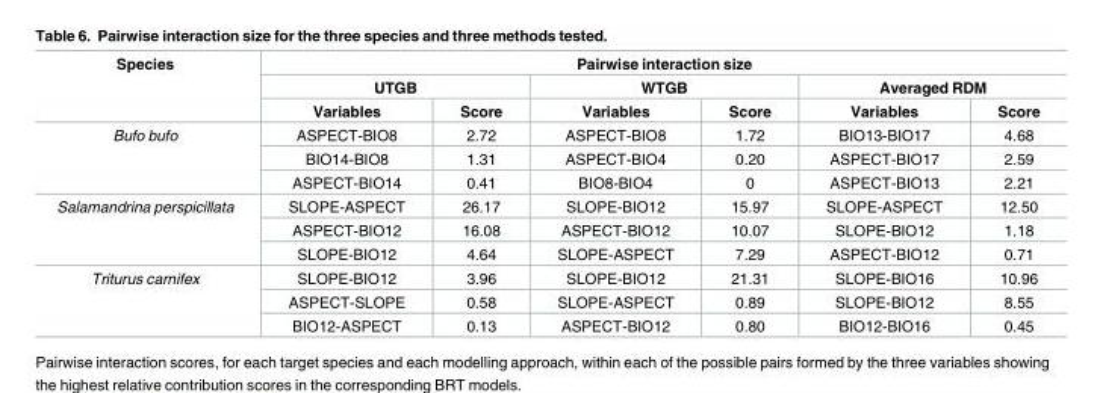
<table><thead><tr><td rowspan="3">Species</td><td colspan="6">Pairwise interaction size</td></tr><tr><td colspan="2">UTGB</td><td colspan="2">WTGB</td><td colspan="2">Averaged RDM</td></tr><tr><td>Variables</td><td>Score</td><td>Variables</td><td>Score</td><td>Variables</td><td>Score</td></tr></thead><tbody><tr><td rowspan="3">Bufo bufo</td><td>ASPECT-BIO8</td><td>2.72</td><td>ASPECT-BIO8</td><td>1.72</td><td>BIO13-BIO17</td><td>4.68</td></tr><tr><td>BIO14-BIO8</td><td>1.31</td><td>ASPECT-BIO4</td><td>0.20</td><td>ASPECT-BIO17</td><td>2.59</td></tr><tr><td>ASPECT-BIO14</td><td>0.41</td><td>BIO8-BIO4</td><td>0</td><td>ASPECT-BIO13</td><td>2.21</td></tr><tr><td rowspan="3">Salamandrina perspicillata</td><td>SLOPE-ASPECT</td><td>26.17</td><td>SLOPE-BIO12</td><td>15.97</td><td>SLOPE-ASPECT</td><td>12.50</td></tr><tr><td>ASPECT-BIO12</td><td>16.08</td><td>ASPECT-BIO12</td><td>10.07</td><td>SLOPE-BIO12</td><td>1.18</td></tr><tr><td>SLOPE-BIO12</td><td>4.64</td><td>SLOPE-ASPECT</td><td>7.29</td><td>ASPECT-BIO12</td><td>0.71</td></tr><tr><td rowspan="3">Triturus carnifex</td><td>SLOPE-BIO12</td><td>3.96</td><td>SLOPE-BIO12</td><td>21.31</td><td>SLOPE-BIO16</td><td>10.96</td></tr><tr><td>ASPECT-SLOPE</td><td>0.58</td><td>SLOPE-ASPECT</td><td>0.89</td><td>SLOPE-BIO12</td><td>8.55</td></tr><tr><td>BIO12-ASPECT</td><td>0.13</td><td>ASPECT-BIO12</td><td>0.80</td><td>BIO12-BIO16</td><td>0.45</td></tr></tbody></table>